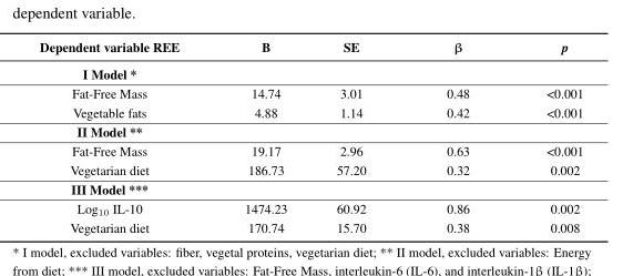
<table><thead><tr><td>Dependent variable REE</td><td>B</td><td>SE</td><td>β</td><td>p</td></tr></thead><tbody><tr><td colspan="5">I Model *</td></tr><tr><td>Fat-Free Mass</td><td>14.74</td><td>3.01</td><td>0.48</td><td>&lt;0.001</td></tr><tr><td>Vegetable fats</td><td>4.88</td><td>1.14</td><td>0.42</td><td>&lt;0.001</td></tr><tr><td colspan="5">II Model **</td></tr><tr><td>Fat-Free Mass</td><td>19.17</td><td>2.96</td><td>0.63</td><td>&lt;0.001</td></tr><tr><td>Vegetarian diet</td><td>186.73</td><td>57.20</td><td>0.32</td><td>0.002</td></tr><tr><td colspan="5">III Model ***</td></tr><tr><td>Log<sub>10</sub> IL-10</td><td>1474.23</td><td>60.92</td><td>0.86</td><td>0.002</td></tr><tr><td>Vegetarian diet</td><td>170.74</td><td>15.70</td><td>0.38</td><td>0.008</td></tr></tbody></table>